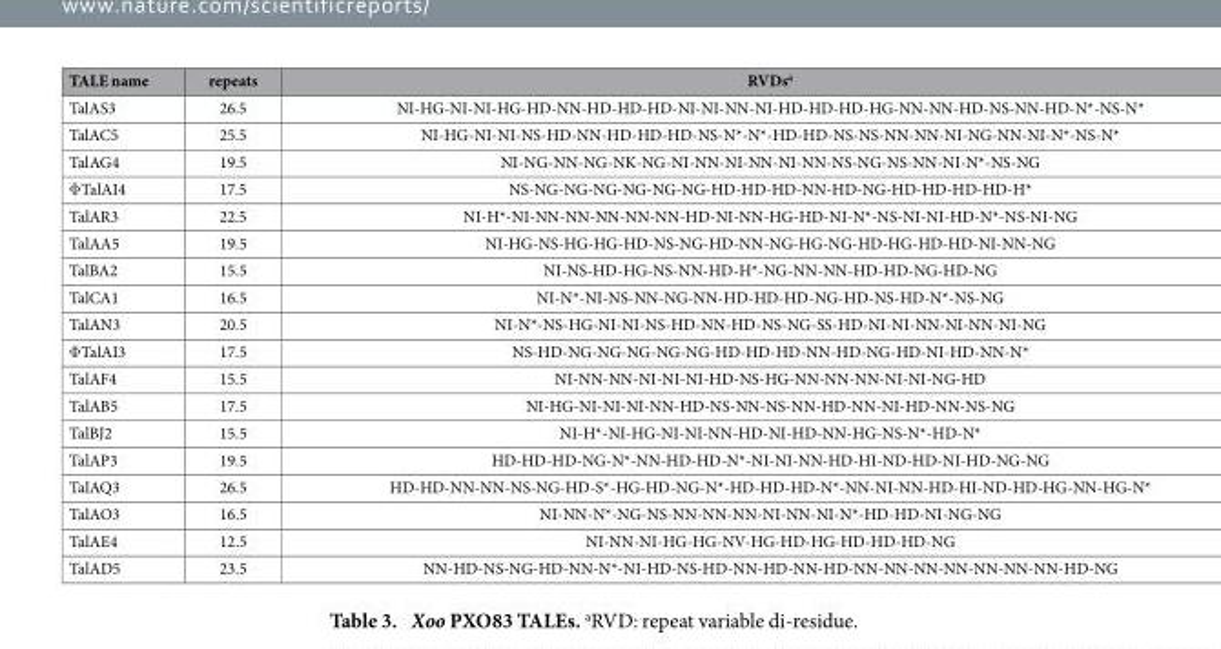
<table><thead><tr><td>TALE name</td><td>repeats</td><td>RVDs<sup>a</sup></td></tr></thead><tbody><tr><td>TalAS3</td><td>26.5</td><td>NI-HG-NI-NI-HG-HD-NN-HD-HD-HD-NI-NI-NN-NI-HD-HD-HD-HG-NN-NN-HD-NS-NN-HD-N*-NS-N*</td></tr><tr><td>TalAC5</td><td>25.5</td><td>NI-HG-NI-NI-NS-HD-NN-HD-HD-HD-NS-N*-N*-HD-HD-NS-NS-NN-NN-NI-NG-NN-NI-N*-NS-N*</td></tr><tr><td>TalAG4</td><td>19.5</td><td>NI-NG-NN-NG-NK-NG-NI-NN-NI-NN-NI-NN-NS-NG-NS-NN-NI-N*-NS-NG</td></tr><tr><td>Φ TalAI4</td><td>17.5</td><td>NS-NG-NG-NG-NG-NG-NG-HD-HD-HD-NN-HD-NG-HD-HD-HD-HD-H*</td></tr><tr><td>TalAR3</td><td>22.5</td><td>NI-H*-NI-NN-NN-NN-NN-NN-HD-NI-NN-HG-HD-NI-N*-NS-NI-NI-HD-N*-NS-NI-NG</td></tr><tr><td>TalAA5</td><td>19.5</td><td>NI-HG-NS-HG-HG-HD-NS-NG-HD-NN-NG-HG-NG-HD-HG-HD-HD-NI-NN-NG</td></tr><tr><td>TalBA2</td><td>15.5</td><td>NI-NS-HD-HG-NS-NN-HD-H*-NG-NN-NN-HD-HD-NG-HD-NG</td></tr><tr><td>TalCA1</td><td>16.5</td><td>NI-N*-NI-NS-NN-NG-NN-HD-HD-HD-NG-HD-NS-HD-N*-NS-NG</td></tr><tr><td>TalAN3</td><td>20.5</td><td>NI-N*-NS-HG-NI-NI-NS-HD-NN-HD-NS-NG-SS-HD-NI-NI-NN-NI-NN-NI-NG</td></tr><tr><td>Φ TalAI3</td><td>17.5</td><td>NS-HD-NG-NG-NG-NG-NG-HD-HD-HD-NN-HD-NG-HD-NI-HD-NN-N*</td></tr><tr><td>TalAF4</td><td>15.5</td><td>NI-NN-NN-NI-NI-NI-HD-NS-HG-NN-NN-NN-NI-NI-NG-HD</td></tr><tr><td>TalAB5</td><td>17.5</td><td>NI-HG-NI-NI-NI-NN-HD-NS-NN-NS-NN-HD-NN-NI-HD-NN-NS-NG</td></tr><tr><td>TalBJ2</td><td>15.5</td><td>NI-H*-NI-HG-NI-NI-NN-HD-NI-HD-NN-HG-NS-N*-HD-N*</td></tr><tr><td>TalAP3</td><td>19.5</td><td>HD-HD-HD-NG-N*-NN-HD-HD-N*-NI-NI-NN-HD-HI-ND-HD-NI-HD-NG-NG</td></tr><tr><td>TalAQ3</td><td>26.5</td><td>HD-HD-NN-NN-NS-NG-HD-S*-HG-HD-NG-N*-HD-HD-HD-N*-NN-NI-NN-HD-HI-ND-HD-HG-NN-HG-N*</td></tr><tr><td>TalAO3</td><td>16.5</td><td>NI-NN-N*-NG-NS-NN-NN-NN-NI-NN-NI-N*-HD-HD-NI-NG-NG</td></tr><tr><td>TalAE4</td><td>12.5</td><td>NI-NN-NI-HG-HG-NV-HG-HD-HG-HD-HD-HD-NG</td></tr><tr><td>TalAD5</td><td>23.5</td><td>NN-HD-NS-NG-HD-NN-N*-NI-HD-NS-HD-NN-HD-NN-HD-NN-NN-NN-NN-NN-NN-NN-HD-NG</td></tr></tbody></table>